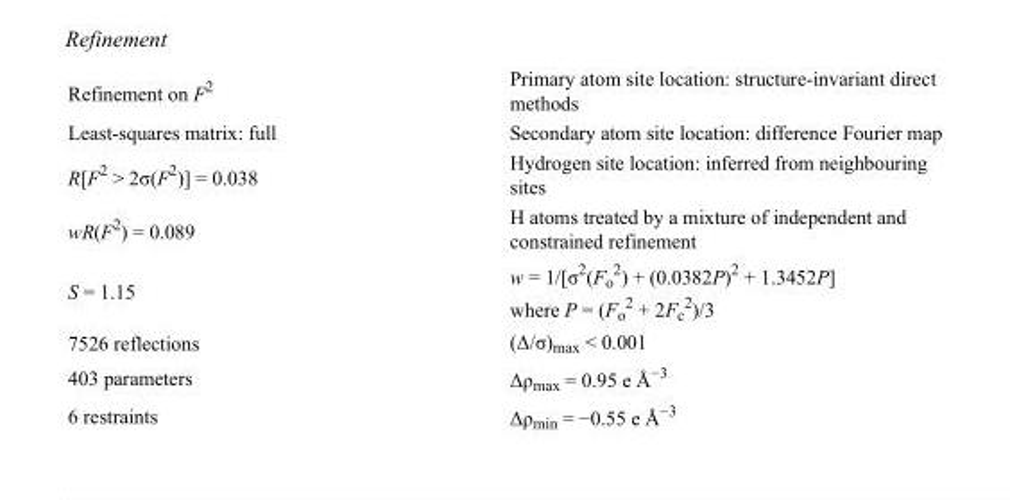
<table><tbody><tr><td>Refinement on F<sup>2</sup></td><td>Primary atom site location: structure-invariant direct methods</td></tr><tr><td>Least-squares matrix: full</td><td>Secondary atom site location: difference Fourier map</td></tr><tr><td>R[F<sup>2</sup> &gt; 2σ(F<sup>2</sup>)] = 0.038</td><td>Hydrogen site location: inferred from neighbouring sites</td></tr><tr><td>wR(F<sup>2</sup>) = 0.089</td><td>H atoms treated by a mixture of independent and constrained refinement</td></tr><tr><td>S = 1.15</td><td>w = 1/[σ<sup>2</sup>(F<sub>o</sub> <sup>2</sup>) + (0.0382P)<sup>2</sup> + 1.3452P] where P = (F<sub>o</sub> <sup>2</sup> + 2F<sub>c</sub> <sup>2</sup>)/3</td></tr><tr><td>7526 reflections</td><td>(Δ/σ)<sub>max</sub> &lt; 0.001</td></tr><tr><td>403 parameters</td><td>Δρ<sub>max</sub> = 0.95 e Å<sup>−3</sup></td></tr><tr><td>6 restraints</td><td>Δρ<sub>min</sub> = −0.55 e Å<sup>−3</sup></td></tr></tbody></table>